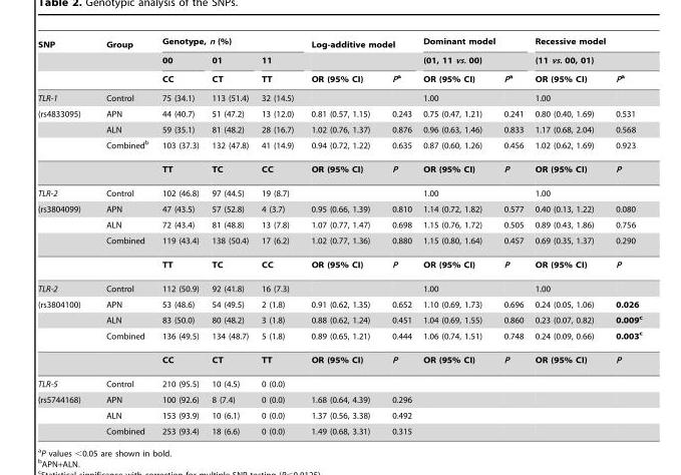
<table><thead><tr><td rowspan="3">SNP</td><td rowspan="3">Group</td><td colspan="3">Genotype, n (%)</td><td colspan="2">Log-additive model</td><td rowspan="2" colspan="2">Dominant model (01, 11 vs. 00)</td><td rowspan="2" colspan="2">Recessive model (11 vs. 00, 01)</td></tr><tr><td rowspan="2">00 CC</td><td rowspan="2">01 CT</td><td rowspan="2">11 TT</td><td rowspan="2">OR (95% CI)</td><td rowspan="2">Pa</td></tr><tr><td>OR (95% CI)</td><td>Pa</td><td>OR (95% CI)</td><td>Pa</td></tr></thead><tbody><tr><td>TLR-1</td><td>Control</td><td>75 (34.1)</td><td>113 (51.4)</td><td>32 (14.5)</td><td></td><td></td><td>1.00</td><td></td><td>1.00</td><td></td></tr><tr><td rowspan="4">(rs4833095)</td><td>APN</td><td>44 (40.7)</td><td>51 (47.2)</td><td>13 (12.0)</td><td>0.81 (0.57, 1.15)</td><td>0.243</td><td>0.75 (0.47, 1.21)</td><td>0.241</td><td>0.80 (0.40, 1.69)</td><td>0.531</td></tr><tr><td>ALN</td><td>59 (35.1)</td><td>81 (48.2)</td><td>28 (16.7)</td><td>1.02 (0.76, 1.37)</td><td>0.876</td><td>0.96 (0.63, 1.46)</td><td>0.833</td><td>1.17 (0.68, 2.04)</td><td>0.568</td></tr><tr><td>Combined<sup>b</sup></td><td>103 (37.3)</td><td>132 (47.8)</td><td>41 (14.9)</td><td>0.94 (0.72, 1.22)</td><td>0.635</td><td>0.87 (0.60, 1.26)</td><td>0.456</td><td>1.02 (0.62, 1.69)</td><td>0.923</td></tr><tr><td></td><td>TT</td><td>TC</td><td>CC</td><td>OR (95% CI)</td><td>P</td><td>OR (95% CI)</td><td>P</td><td>OR (95% CI)</td><td>P</td></tr><tr><td>TLR-2</td><td>Control</td><td>102 (46.8)</td><td>97 (44.5)</td><td>19 (8.7)</td><td></td><td></td><td>1.00</td><td></td><td>1.00</td><td></td></tr><tr><td rowspan="4">(rs3804099)</td><td>APN</td><td>47 (43.5)</td><td>57 (52.8)</td><td>4 (3.7)</td><td>0.95 (0.66, 1.39)</td><td>0.810</td><td>1.14 (0.72, 1.82)</td><td>0.577</td><td>0.40 (0.13, 1.22)</td><td>0.080</td></tr><tr><td>ALN</td><td>72 (43.4)</td><td>81 (48.8)</td><td>13 (7.8)</td><td>1.07 (0.77, 1.47)</td><td>0.698</td><td>1.15 (0.76, 1.72)</td><td>0.505</td><td>0.89 (0.43, 1.86)</td><td>0.756</td></tr><tr><td>Combined</td><td>119 (43.4)</td><td>138 (50.4)</td><td>17 (6.2)</td><td>1.02 (0.77, 1.36)</td><td>0.880</td><td>1.15 (0.80, 1.64)</td><td>0.457</td><td>0.69 (0.35, 1.37)</td><td>0.290</td></tr><tr><td></td><td>TT</td><td>TC</td><td>CC</td><td>OR (95% CI)</td><td>P</td><td>OR (95% CI)</td><td>P</td><td>OR (95% CI)</td><td>P</td></tr><tr><td>TLR-2</td><td>Control</td><td>112 (50.9)</td><td>92 (41.8)</td><td>16 (7.3)</td><td></td><td></td><td>1.00</td><td></td><td>1.00</td><td></td></tr><tr><td rowspan="4">(rs3804100)</td><td>APN</td><td>53 (48.6)</td><td>54 (49.5)</td><td>2 (1.8)</td><td>0.91 (0.62, 1.35)</td><td>0.652</td><td>1.10 (0.69, 1.73)</td><td>0.696</td><td>0.24 (0.05, 1.06)</td><td>0.026</td></tr><tr><td>ALN</td><td>83 (50.0)</td><td>80 (48.2)</td><td>3 (1.8)</td><td>0.88 (0.62, 1.24)</td><td>0.451</td><td>1.04 (0.69, 1.55)</td><td>0.860</td><td>0.23 (0.07, 0.82)</td><td>0.009c</td></tr><tr><td>Combined</td><td>136 (49.5)</td><td>134 (48.7)</td><td>5 (1.8)</td><td>0.89 (0.65, 1.21)</td><td>0.444</td><td>1.06 (0.74, 1.51)</td><td>0.748</td><td>0.24 (0.09, 0.66)</td><td>0.003c</td></tr><tr><td></td><td>CC</td><td>CT</td><td>TT</td><td>OR (95% CI)</td><td>P</td><td>OR (95% CI)</td><td>P</td><td>OR (95% CI)</td><td>P</td></tr><tr><td>TLR-5</td><td>Control</td><td>210 (95.5)</td><td>10 (4.5)</td><td>0 (0.0)</td><td></td><td></td><td></td><td></td><td></td><td></td></tr><tr><td rowspan="3">(rs5744168)</td><td>APN</td><td>100 (92.6)</td><td>8 (7.4)</td><td>0 (0.0)</td><td>1.68 (0.64, 4.39)</td><td>0.296</td><td></td><td></td><td></td><td></td></tr><tr><td>ALN</td><td>153 (93.9)</td><td>10 (6.1)</td><td>0 (0.0)</td><td>1.37 (0.56, 3.38)</td><td>0.492</td><td></td><td></td><td></td><td></td></tr><tr><td>Combined</td><td>253 (93.4)</td><td>18 (6.6)</td><td>0 (0.0)</td><td>1.49 (0.68, 3.31)</td><td>0.315</td><td></td><td></td><td></td><td></td></tr></tbody></table>